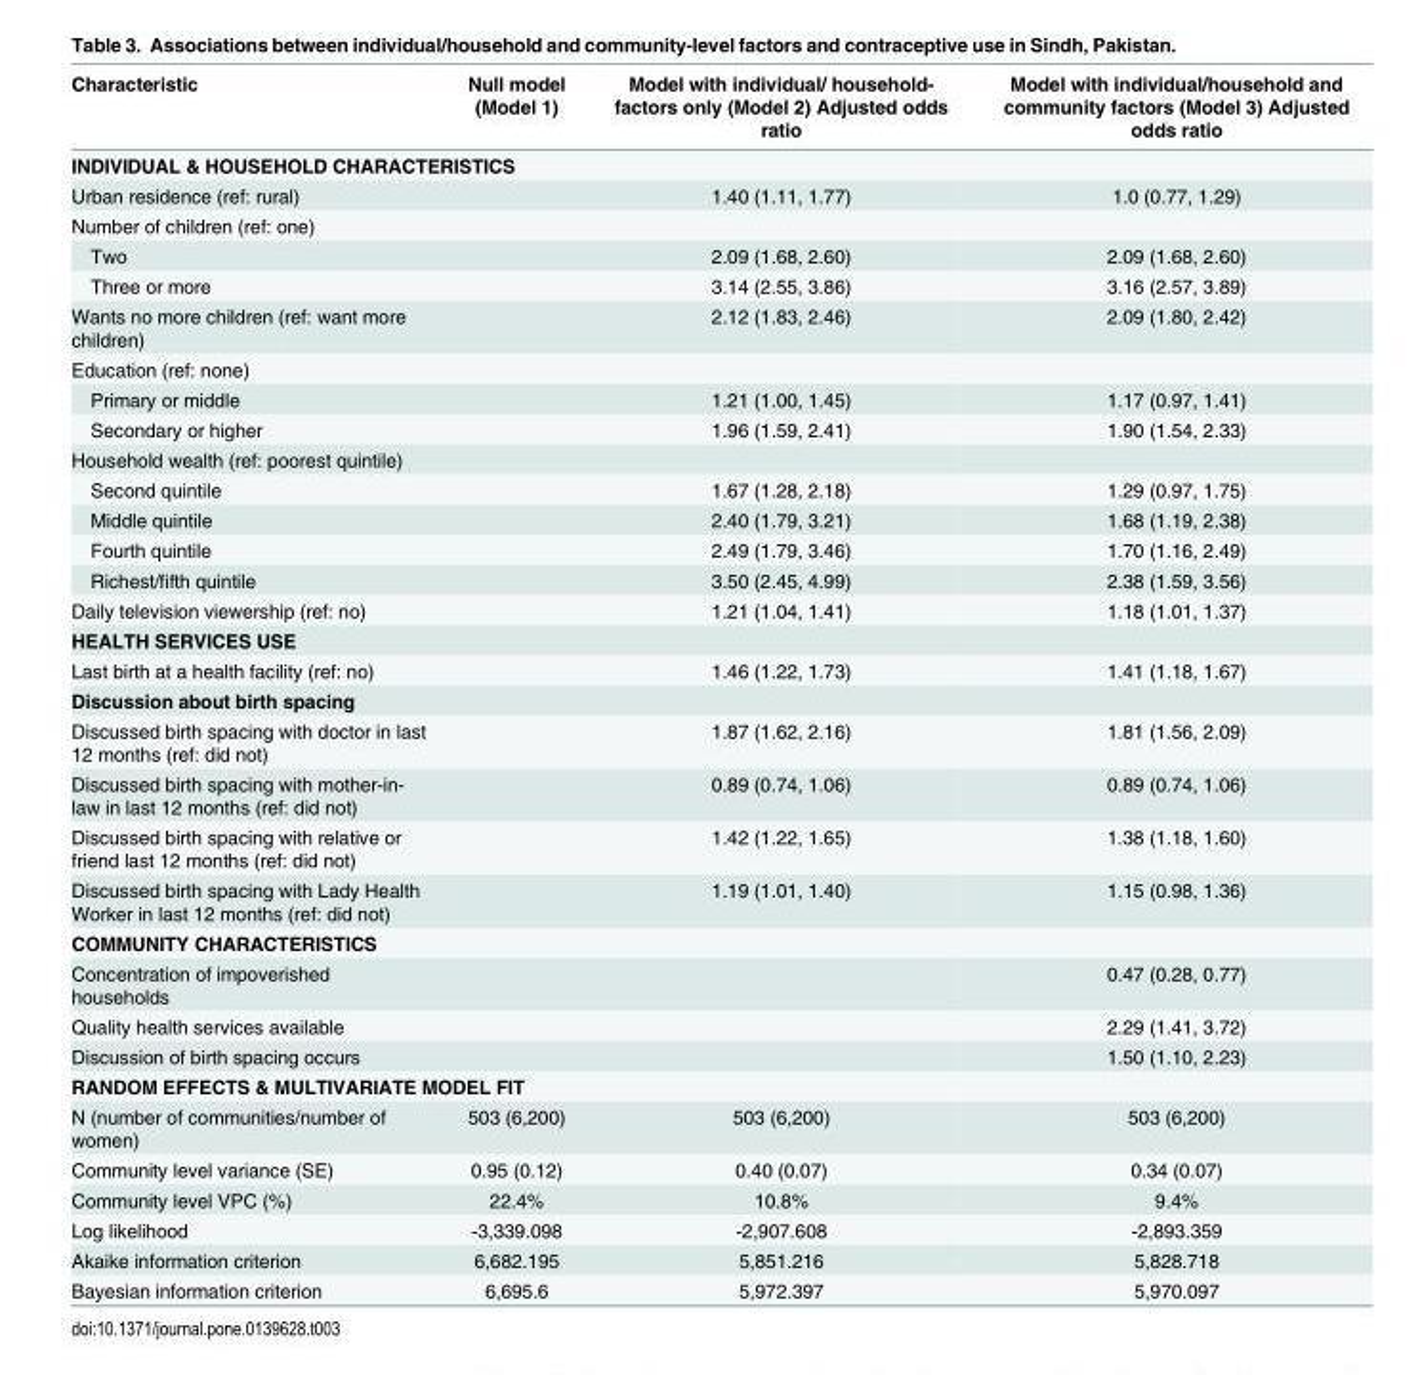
<table><thead><tr><td>Characteristic</td><td>Null model (Model 1)</td><td>Model with individual/ household- factors only (Model 2) Adjusted odds ratio</td><td>Model with individual/household and community factors (Model 3) Adjusted odds ratio</td></tr></thead><tbody><tr><td colspan="4">INDIVIDUAL &amp; HOUSEHOLD CHARACTERISTICS</td></tr><tr><td>Urban residence (ref: rural)</td><td></td><td>1.40 (1.11, 1.77)</td><td>1.0 (0.77, 1.29)</td></tr><tr><td colspan="4">Number of children (ref: one)</td></tr><tr><td>Two</td><td></td><td>2.09 (1.68, 2.60)</td><td>2.09 (1.68, 2.60)</td></tr><tr><td>Three or more</td><td></td><td>3.14 (2.55, 3.86)</td><td>3.16 (2.57, 3.89)</td></tr><tr><td>Wants no more children (ref: want more children)</td><td></td><td>2.12 (1.83, 2.46)</td><td>2.09 (1.80, 2.42)</td></tr><tr><td colspan="4">Education (ref: none)</td></tr><tr><td>Primary or middle</td><td></td><td>1.21 (1.00, 1.45)</td><td>1.17 (0.97, 1.41)</td></tr><tr><td>Secondary or higher</td><td></td><td>1.96 (1.59, 2.41)</td><td>1.90 (1.54, 2.33)</td></tr><tr><td colspan="4">Household wealth (ref: poorest quintile)</td></tr><tr><td>Second quintile</td><td></td><td>1.67 (1.28, 2.18)</td><td>1.29 (0.97, 1.75)</td></tr><tr><td>Middle quintile</td><td></td><td>2.40 (1.79, 3.21)</td><td>1.68 (1.19, 2.38)</td></tr><tr><td>Fourth quintile</td><td></td><td>2.49 (1.79, 3.46)</td><td>1.70 (1.16, 2.49)</td></tr><tr><td>Richest/fifth quintile</td><td></td><td>3.50 (2.45, 4.99)</td><td>2.38 (1.59, 3.56)</td></tr><tr><td>Daily television viewership (ref: no)</td><td></td><td>1.21 (1.04, 1.41)</td><td>1.18 (1.01, 1.37)</td></tr><tr><td colspan="4">HEALTH SERVICES USE</td></tr><tr><td>Last birth at a health facility (ref: no)</td><td></td><td>1.46 (1.22, 1.73)</td><td>1.41 (1.18, 1.67)</td></tr><tr><td colspan="4">Discussion about birth spacing</td></tr><tr><td>Discussed birth spacing with doctor in last 12 months (ref: did not)</td><td></td><td>1.87 (1.62, 2.16)</td><td>1.81 (1.56, 2.09)</td></tr><tr><td>Discussed birth spacing with mother-in- law in last 12 months (ref: did not)</td><td></td><td>0.89 (0.74, 1.06)</td><td>0.89 (0.74, 1.06)</td></tr><tr><td>Discussed birth spacing with relative or friend last 12 months (ref: did not)</td><td></td><td>1.42 (1.22, 1.65)</td><td>1.38 (1.18, 1.60)</td></tr><tr><td>Discussed birth spacing with Lady Health Worker in last 12 months (ref: did not)</td><td></td><td>1.19 (1.01, 1.40)</td><td>1.15 (0.98, 1.36)</td></tr><tr><td colspan="4">COMMUNITY CHARACTERISTICS</td></tr><tr><td>Concentration of impoverished households</td><td></td><td></td><td>0.47 (0.28, 0.77)</td></tr><tr><td>Quality health services available</td><td></td><td></td><td>2.29 (1.41, 3.72)</td></tr><tr><td>Discussion of birth spacing occurs</td><td></td><td></td><td>1.50 (1.10, 2.23)</td></tr><tr><td colspan="4">RANDOM EFFECTS &amp; MULTIVARIATE MODEL FIT</td></tr><tr><td>N (number of communities/number of women)</td><td>503 (6,200)</td><td>503 (6,200)</td><td>503 (6,200)</td></tr><tr><td>Community level variance (SE)</td><td>0.95 (0.12)</td><td>0.40 (0.07)</td><td>0.34 (0.07)</td></tr><tr><td>Community level VPC (%)</td><td>22.4%</td><td>10.8%</td><td>9.4%</td></tr><tr><td>Log likelihood</td><td>-3,339.098</td><td>-2,907.608</td><td>-2,893.359</td></tr><tr><td>Akaike information criterion</td><td>6,682.195</td><td>5,851.216</td><td>5,828.718</td></tr><tr><td>Bayesian information criterion</td><td>6,695.6</td><td>5,972.397</td><td>5,970.097</td></tr></tbody></table>